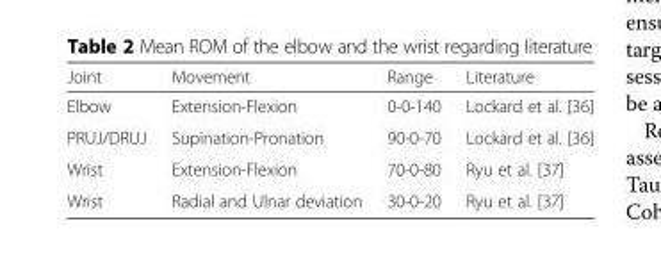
<table><thead><tr><td>Joint</td><td>Movement</td><td>Range</td><td>Literature</td></tr></thead><tbody><tr><td>Elbow</td><td>Extension-Flexion</td><td>0-0-140</td><td>Lockard et al. [36]</td></tr><tr><td>PRUJ/DRUJ</td><td>Supination-Pronation</td><td>90-0-70</td><td>Lockard et al. [36]</td></tr><tr><td>Wrist</td><td>Extension-Flexion</td><td>70-0-80</td><td>Ryu et al. [37]</td></tr><tr><td>Wrist</td><td>Radial and Ulnar deviation</td><td>30-0-20</td><td>Ryu et al. [37]</td></tr></tbody></table>